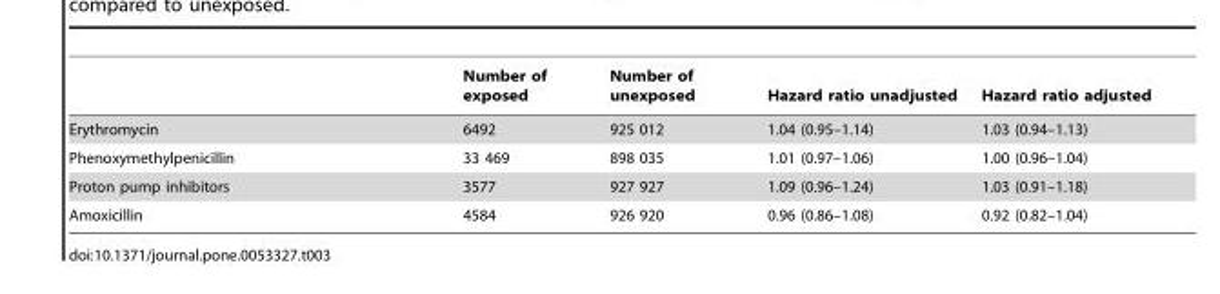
<table><thead><tr><td></td><td>Number of exposed</td><td>Number of unexposed</td><td>Hazard ratio unadjusted</td><td>Hazard ratio adjusted</td></tr></thead><tbody><tr><td>Erythromycin</td><td>6492</td><td>925 012</td><td>1.04 (0.95–1.14)</td><td>1.03 (0.94–1.13)</td></tr><tr><td>Phenoxymethylpenicillin</td><td>33 469</td><td>898 035</td><td>1.01 (0.97–1.06)</td><td>1.00 (0.96–1.04)</td></tr><tr><td>Proton pump inhibitors</td><td>3577</td><td>927 927</td><td>1.09 (0.96–1.24)</td><td>1.03 (0.91–1.18)</td></tr><tr><td>Amoxicillin</td><td>4584</td><td>926 920</td><td>0.96 (0.86–1.08)</td><td>0.92 (0.82–1.04)</td></tr></tbody></table>